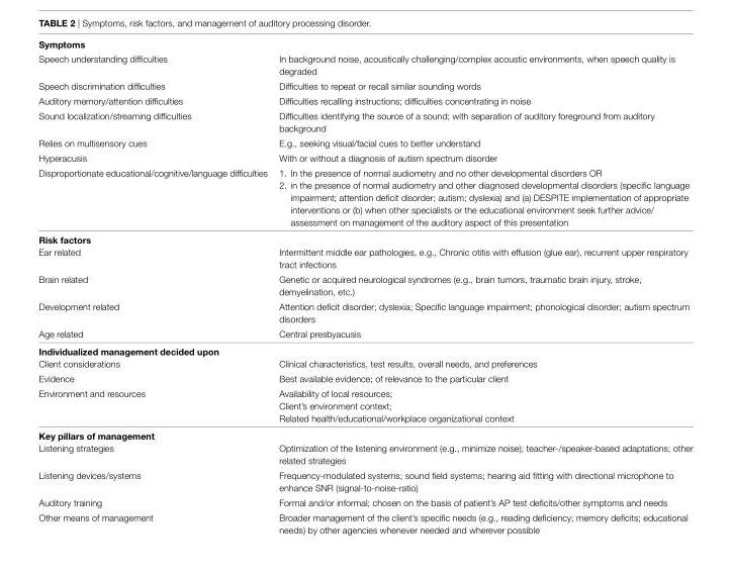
<table><tbody><tr><td colspan="2">symptoms</td></tr><tr><td>Speech understanding difficulties</td><td>In background noise, acoustically challenging/complex acoustic environments, when speech quality is degraded</td></tr><tr><td>Speech discrimination difficulties</td><td>Difficulties to repeat or recall similar sounding words</td></tr><tr><td>Auditory memory/attention difficulties</td><td>Difficulties recalling instructions; difficulties concentrating in noise</td></tr><tr><td>Sound localization/streaming difficulties</td><td>Difficulties identifying the source of a sound; with separation of auditory foreground from auditory background</td></tr><tr><td>Relies on multisensory cues</td><td>E.g., seeking visual/facial cues to better understand</td></tr><tr><td>Hyperacusis</td><td>With or without a diagnosis of autism spectrum disorder</td></tr><tr><td>Disproportionate educational/cognitive/language difficulties</td><td>1. In the presence of normal audiometry and no other developmental disorders OR 2. in the presence of normal audiometry and other diagnosed developmental disorders (specific language impairment; attention deficit disorder; autism; dyslexia) and (a) DESPITE implementation of appropriate interventions or (b) when other specialists or the educational environment seek further advice/ assessment on management of the auditory aspect of this presentation</td></tr><tr><td colspan="2">risk factors</td></tr><tr><td>Ear related</td><td>Intermittent middle ear pathologies, e.g., Chronic otitis with effusion (glue ear), recurrent upper respiratory tract infections</td></tr><tr><td>Brain related</td><td>Genetic or acquired neurological syndromes (e.g., brain tumors, traumatic brain injury, stroke, demyelination, etc.)</td></tr><tr><td>Development related</td><td>Attention deficit disorder; dyslexia; Specific language impairment; phonological disorder; autism spectrum disorders</td></tr><tr><td>Age related</td><td>Central presbyacusis</td></tr><tr><td colspan="2">individualized management decided upon</td></tr><tr><td>Client considerations</td><td>Clinical characteristics, test results, overall needs, and preferences</td></tr><tr><td>Evidence</td><td>Best available evidence; of relevance to the particular client</td></tr><tr><td>Environment and resources</td><td>Availability of local resources; Client’s environment context; Related health/educational/workplace organizational context</td></tr><tr><td colspan="2">Key pillars of management</td></tr><tr><td>Listening strategies</td><td>Optimization of the listening environment (e.g., minimize noise); teacher-/speaker-based adaptations; other related strategies</td></tr><tr><td>Listening devices/systems</td><td>Frequency-modulated systems; sound field systems; hearing aid fitting with directional microphone to enhance SNR (signal-to-noise-ratio)</td></tr><tr><td>Auditory training</td><td>Formal and/or informal; chosen on the basis of patient’s AP test deficits/other symptoms and needs</td></tr><tr><td>Other means of management</td><td>Broader management of the client’s specific needs (e.g., reading deficiency; memory deficits; educational needs) by other agencies whenever needed and wherever possible</td></tr></tbody></table>